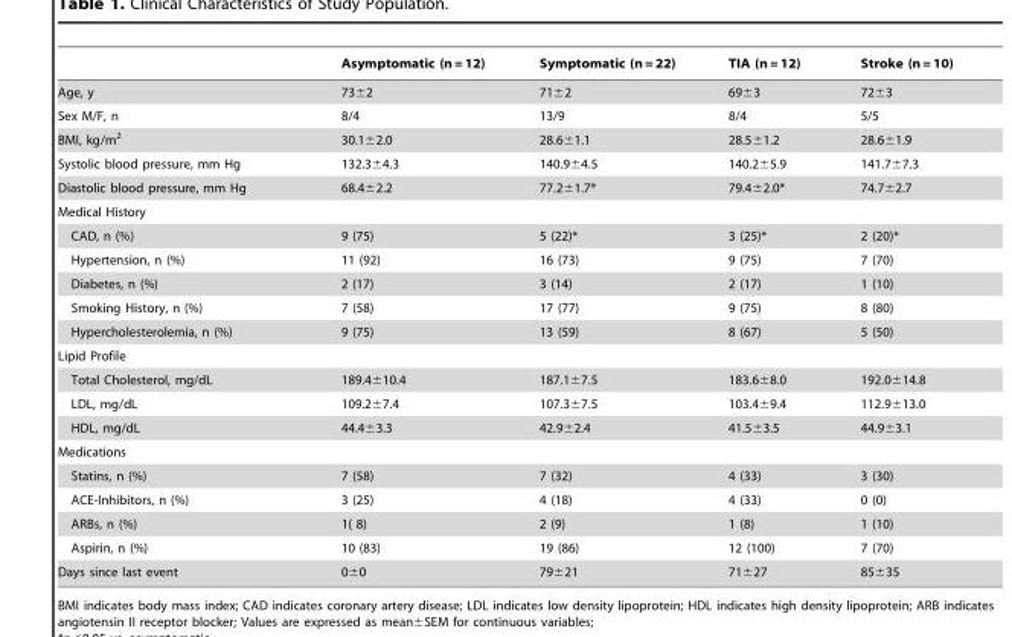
<table><thead><tr><td></td><td>Asymptomatic (n = 12)</td><td>Symptomatic (n = 22)</td><td>TIA (n = 12)</td><td>Stroke (n = 10)</td></tr></thead><tbody><tr><td>Age, y</td><td>73±2</td><td>71±2</td><td>69±3</td><td>72±3</td></tr><tr><td>Sex M/F, n</td><td>8/4</td><td>13/9</td><td>8/4</td><td>5/5</td></tr><tr><td>BMI, kg/m<sup>2</sup></td><td>30.1±2.0</td><td>28.6±1.1</td><td>28.5±1.2</td><td>28.6±1.9</td></tr><tr><td>Systolic blood pressure, mm Hg</td><td>132.3±4.3</td><td>140.9±4.5</td><td>140.2±5.9</td><td>141.7±7.3</td></tr><tr><td>Diastolic blood pressure, mm Hg</td><td>68.4±2.2</td><td>77.2±1.7*</td><td>79.4±2.0*</td><td>74.7±2.7</td></tr><tr><td colspan="5">Medical History</td></tr><tr><td>CAD, n (%)</td><td>9 (75)</td><td>5 (22)*</td><td>3 (25)*</td><td>2 (20)*</td></tr><tr><td>Hypertension, n (%)</td><td>11 (92)</td><td>16 (73)</td><td>9 (75)</td><td>7 (70)</td></tr><tr><td>Diabetes, n (%)</td><td>2 (17)</td><td>3 (14)</td><td>2 (17)</td><td>1 (10)</td></tr><tr><td>Smoking History, n (%)</td><td>7 (58)</td><td>17 (77)</td><td>9 (75)</td><td>8 (80)</td></tr><tr><td>Hypercholesterolemia, n (%)</td><td>9 (75)</td><td>13 (59)</td><td>8 (67)</td><td>5 (50)</td></tr><tr><td colspan="5">Lipid Profile</td></tr><tr><td>Total Cholesterol, mg/dL</td><td>189.4±10.4</td><td>187.1±7.5</td><td>183.6±8.0</td><td>192.0±14.8</td></tr><tr><td>LDL, mg/dL</td><td>109.2±7.4</td><td>107.3±7.5</td><td>103.4±9.4</td><td>112.9±13.0</td></tr><tr><td>HDL, mg/dL</td><td>44.4±3.3</td><td>42.9±2.4</td><td>41.5±3.5</td><td>44.9±3.1</td></tr><tr><td colspan="5">Medications</td></tr><tr><td>Statins, n (%)</td><td>7 (58)</td><td>7 (32)</td><td>4 (33)</td><td>3 (30)</td></tr><tr><td>ACE-Inhibitors, n (%)</td><td>3 (25)</td><td>4 (18)</td><td>4 (33)</td><td>0 (0)</td></tr><tr><td>ARBs, n (%)</td><td>1( 8)</td><td>2 (9)</td><td>1 (8)</td><td>1 (10)</td></tr><tr><td>Aspirin, n (%)</td><td>10 (83)</td><td>19 (86)</td><td>12 (100)</td><td>7 (70)</td></tr><tr><td>Days since last event</td><td>0±0</td><td>79±21</td><td>71±27</td><td>85±35</td></tr></tbody></table>